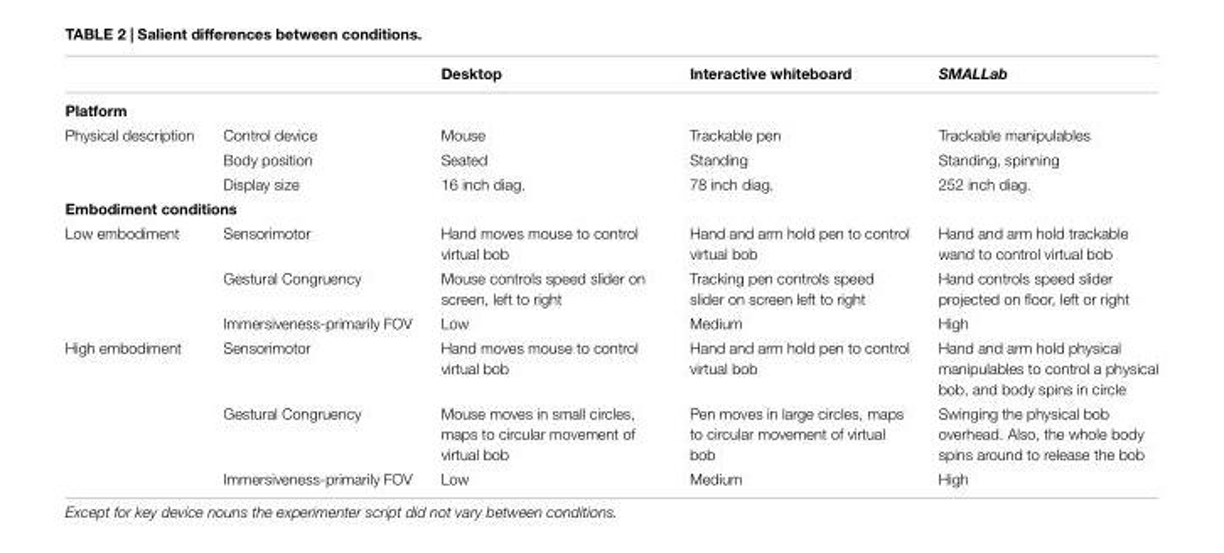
<table><thead><tr><td></td><td></td><td>Desktop</td><td>Interactive whiteboard</td><td>SMALLab</td></tr></thead><tbody><tr><td colspan="5">Platform</td></tr><tr><td rowspan="3">Physical description</td><td>Control device</td><td>Mouse</td><td>Trackable pen</td><td>Trackable manipulables</td></tr><tr><td>Body position</td><td>Seated</td><td>Standing</td><td>Standing, spinning</td></tr><tr><td>Display size</td><td>16 inch diag.</td><td>78 inch diag.</td><td>252 inch diag.</td></tr><tr><td colspan="5">Embodiment conditions</td></tr><tr><td rowspan="3">Low embodiment</td><td>Sensorimotor</td><td>Hand moves mouse to control virtual bob</td><td>Hand and arm hold pen to control virtual bob</td><td>Hand and arm hold trackable wand to control virtual bob</td></tr><tr><td>Gestural Congruency</td><td>Mouse controls speed slider on screen, left to right</td><td>Tracking pen controls speed slider on screen left to right</td><td>Hand controls speed slider projected on floor, left or right</td></tr><tr><td>Immersiveness-primarily FOV</td><td>Low</td><td>Medium</td><td>High</td></tr><tr><td rowspan="3">High embodiment</td><td>Sensorimotor</td><td>Hand moves mouse to control virtual bob</td><td>Hand and arm hold pen to control virtual bob</td><td>Hand and arm hold physical manipulables to control a physical bob, and body spins in circle</td></tr><tr><td>Gestural Congruency</td><td>Mouse moves in small circles, maps to circular movement of virtual bob</td><td>Pen moves in large circles, maps to circular movement of virtual bob</td><td>Swinging the physical bob overhead. Also, the whole body spins around to release the bob</td></tr><tr><td>Immersiveness-primarily FOV</td><td>Low</td><td>Medium</td><td>High</td></tr></tbody></table>